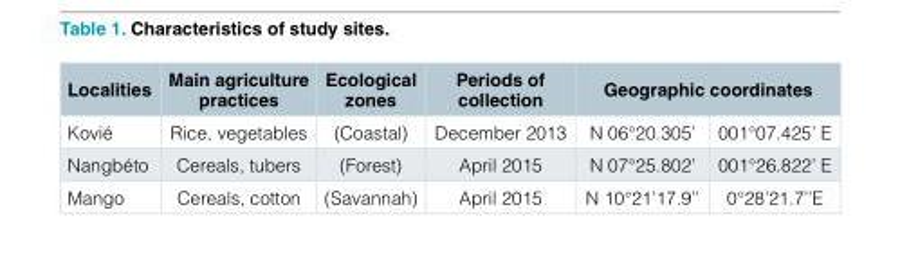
<table><thead><tr><td rowspan="2">Localities Kovié</td><td rowspan="2">Main agriculture practices Rice, vegetables</td><td rowspan="2">Ecological zones (Coastal)</td><td rowspan="2">Periods of collection December 2013</td><td colspan="2">Geographic coordinates</td></tr><tr><td>N 06°20.305’</td><td>001°07.425’ E</td></tr></thead><tbody><tr><td>Nangbéto</td><td>Cereals, tubers</td><td>(Forest)</td><td>April 2015</td><td>N 07°25.802’</td><td>001°26.822’ E</td></tr><tr><td>Mango</td><td>Cereals, cotton</td><td>(Savannah)</td><td>April 2015</td><td>N 10°21’17.9’’</td><td>0°28’21.7’’E</td></tr></tbody></table>